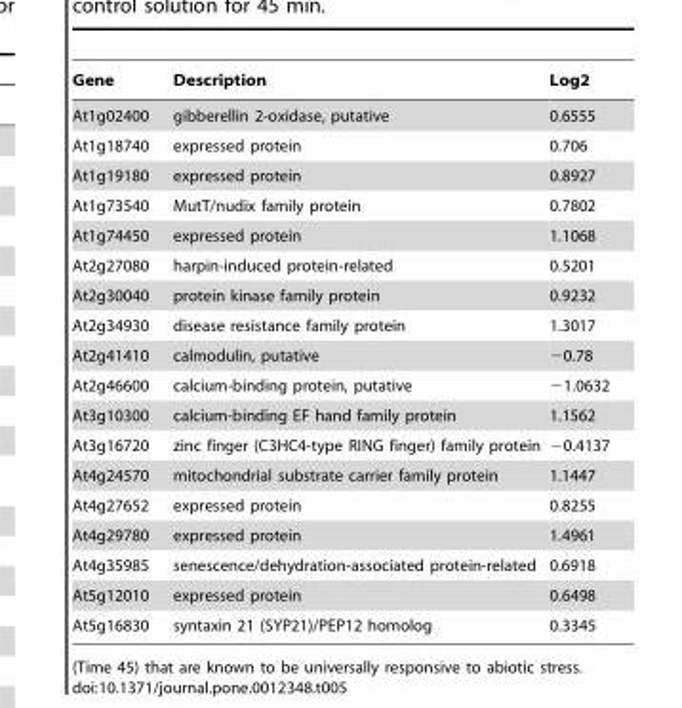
<table><thead><tr><td>Gene</td><td>Description</td><td>Log2</td></tr></thead><tbody><tr><td>At1g02400</td><td>gibberellin 2-oxidase, putative</td><td>0.6555</td></tr><tr><td>At1g18740</td><td>expressed protein</td><td>0.706</td></tr><tr><td>At1g19180</td><td>expressed protein</td><td>0.8927</td></tr><tr><td>At1g73540</td><td>MutT/nudix family protein</td><td>0.7802</td></tr><tr><td>At1g74450</td><td>expressed protein</td><td>1.1068</td></tr><tr><td>At2g27080</td><td>harpin-induced protein-related</td><td>0.5201</td></tr><tr><td>At2g30040</td><td>protein kinase family protein</td><td>0.9232</td></tr><tr><td>At2g34930</td><td>disease resistance family protein</td><td>1.3017</td></tr><tr><td>At2g41410</td><td>calmodulin, putative</td><td>−0.78</td></tr><tr><td>At2g46600</td><td>calcium-binding protein, putative</td><td>−1.0632</td></tr><tr><td>At3g10300</td><td>calcium-binding EF hand family protein</td><td>1.1562</td></tr><tr><td>At3g16720</td><td>zinc finger (C3HC4-type RING finger) family protein</td><td>−0.4137</td></tr><tr><td>At4g24570</td><td>mitochondrial substrate carrier family protein</td><td>1.1447</td></tr><tr><td>At4g27652</td><td>expressed protein</td><td>0.8255</td></tr><tr><td>At4g29780</td><td>expressed protein</td><td>1.4961</td></tr><tr><td>At4g35985</td><td>senescence/dehydration-associated protein-related</td><td>0.6918</td></tr><tr><td>At5g12010</td><td>expressed protein</td><td>0.6498</td></tr><tr><td>At5g16830</td><td>syntaxin 21 (SYP21)/PEP12 homolog</td><td>0.3345</td></tr></tbody></table>